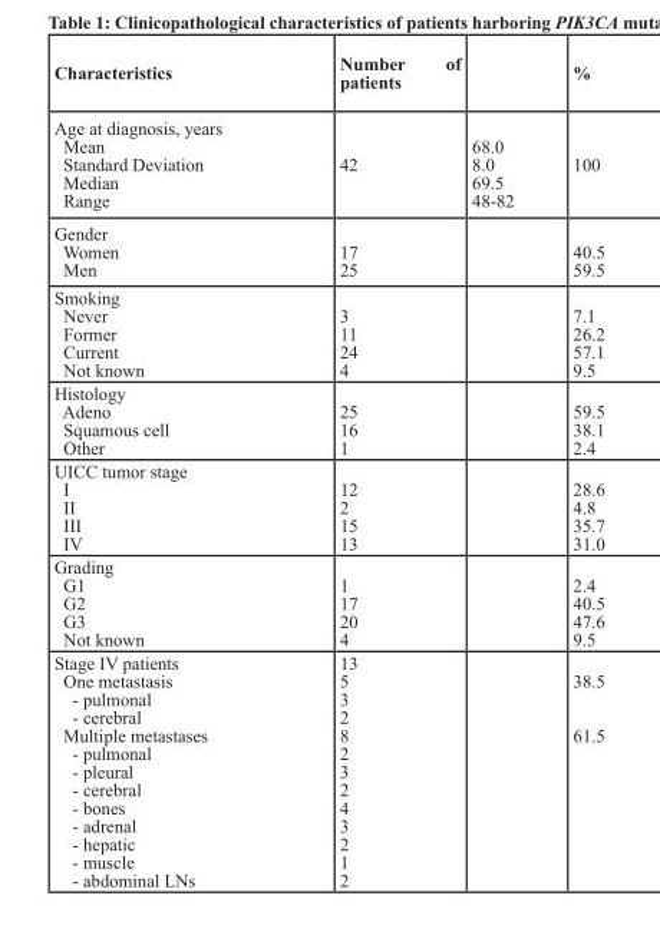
<table><thead><tr><td>Characteristics</td><td>Number of patients</td><td></td><td>%</td></tr></thead><tbody><tr><td>Age at diagnosis, years Mean Standard Deviation Median Range</td><td>42</td><td>68.0 8.0 69.5 48-82</td><td>100</td></tr><tr><td>Gender Women Men</td><td>17 25</td><td></td><td>40.5 59.5</td></tr><tr><td>Smoking Never Former Current Not known</td><td>3 11 24 4</td><td></td><td>7.1 26.2 57.1 9.5</td></tr><tr><td>Histology Adeno Squamous cell Other</td><td>25 16 1</td><td></td><td>59.5 38.1 2.4</td></tr><tr><td>UICC tumor stage I II III IV</td><td>12 2 15 13</td><td></td><td>28.6 4.8 35.7 31.0</td></tr><tr><td>Grading G1 G2 G3 Not known</td><td>1 17 20 4</td><td></td><td>2.4 40.5 47.6 9.5</td></tr><tr><td>Stage IV patients One metastasis - pulmonal - cerebral Multiple metastases - pulmonal - pleural - cerebral - bones - adrenal - hepatic - muscle - abdominal LNs</td><td>13 5 3 2 8 2 3 2 4 3 2 1 2</td><td></td><td>38.5 61.5</td></tr></tbody></table>